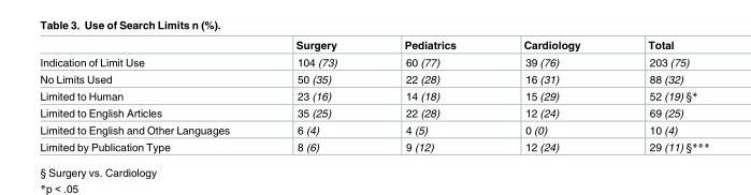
<table><thead><tr><td></td><td>Surgery</td><td>Pediatrics</td><td>Cardiology</td><td>Total</td></tr></thead><tbody><tr><td>Indication of Limit Use</td><td>104 (73)</td><td>60 (77)</td><td>39 (76)</td><td>203 (75)</td></tr><tr><td>No Limits Used</td><td>50 (35)</td><td>22 (28)</td><td>16 (31)</td><td>88 (32)</td></tr><tr><td>Limited to Human</td><td>23 (16)</td><td>14 (18)</td><td>15 (29)</td><td>52 (19) §*</td></tr><tr><td>Limited to English Articles</td><td>35 (25)</td><td>22 (28)</td><td>12 (24)</td><td>69 (25)</td></tr><tr><td>Limited to English and Other Languages</td><td>6 (4)</td><td>4 (5)</td><td>0 (0)</td><td>10 (4)</td></tr><tr><td>Limited by Publication Type</td><td>8 (6)</td><td>9 (12)</td><td>12 (24)</td><td>29 (11) §***</td></tr></tbody></table>